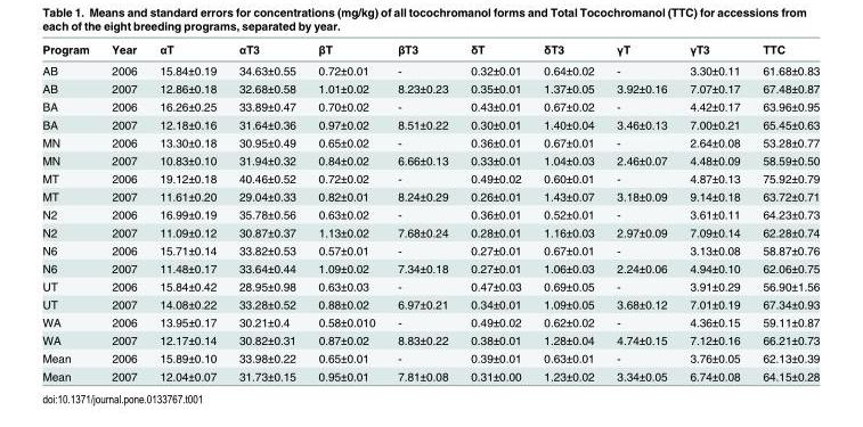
<table><thead><tr><td>Program</td><td>Year</td><td>αT</td><td>αT3</td><td>βT</td><td>βT3</td><td>δT</td><td>δT3</td><td>γT</td><td>γT3</td><td>TTC</td></tr></thead><tbody><tr><td>AB</td><td>2006</td><td>15.84±0.19</td><td>34.63±0.55</td><td>0.72±0.01</td><td>-</td><td>0.32±0.01</td><td>0.64±0.02</td><td>-</td><td>3.30±0.11</td><td>61.68±0.83</td></tr><tr><td>AB</td><td>2007</td><td>12.86±0.18</td><td>32.68±0.58</td><td>1.01±0.02</td><td>8.23±0.23</td><td>0.35±0.01</td><td>1.37±0.05</td><td>3.92±0.16</td><td>7.07±0.17</td><td>67.48±0.87</td></tr><tr><td>BA</td><td>2006</td><td>16.26±0.25</td><td>33.89±0.47</td><td>0.70±0.02</td><td>-</td><td>0.43±0.01</td><td>0.67±0.02</td><td>-</td><td>4.42±0.17</td><td>63.96±0.95</td></tr><tr><td>BA</td><td>2007</td><td>12.18±0.16</td><td>31.64±0.36</td><td>0.97±0.02</td><td>8.51±0.22</td><td>0.30±0.01</td><td>1.40±0.04</td><td>3.46±0.13</td><td>7.00±0.21</td><td>65.45±0.63</td></tr><tr><td>MN</td><td>2006</td><td>13.30±0.18</td><td>30.95±0.49</td><td>0.65±0.02</td><td>-</td><td>0.36±0.01</td><td>0.67±0.01</td><td>-</td><td>2.64±0.08</td><td>53.28±0.77</td></tr><tr><td>MN</td><td>2007</td><td>10.83±0.10</td><td>31.94±0.32</td><td>0.84±0.02</td><td>6.66±0.13</td><td>0.33±0.01</td><td>1.04±0.03</td><td>2.46±0.07</td><td>4.48±0.09</td><td>58.59±0.50</td></tr><tr><td>MT</td><td>2006</td><td>19.12±0.18</td><td>40.46±0.52</td><td>0.72±0.02</td><td>-</td><td>0.49±0.02</td><td>0.60±0.01</td><td>-</td><td>4.87±0.13</td><td>75.92±0.79</td></tr><tr><td>MT</td><td>2007</td><td>11.61±0.20</td><td>29.04±0.33</td><td>0.82±0.01</td><td>8.24±0.29</td><td>0.26±0.01</td><td>1.43±0.07</td><td>3.18±0.09</td><td>9.14±0.18</td><td>63.72±0.71</td></tr><tr><td>N2</td><td>2006</td><td>16.99±0.19</td><td>35.78±0.56</td><td>0.63±0.02</td><td>-</td><td>0.36±0.01</td><td>0.52±0.01</td><td>-</td><td>3.61±0.11</td><td>64.23±0.73</td></tr><tr><td>N2</td><td>2007</td><td>11.09±0.12</td><td>30.87±0.37</td><td>1.13±0.02</td><td>7.68±0.24</td><td>0.28±0.01</td><td>1.16±0.03</td><td>2.97±0.09</td><td>7.09±0.14</td><td>62.28±0.74</td></tr><tr><td>N6</td><td>2006</td><td>15.71±0.14</td><td>33.82±0.53</td><td>0.57±0.01</td><td>-</td><td>0.27±0.01</td><td>0.67±0.01</td><td>-</td><td>3.13±0.08</td><td>58.87±0.76</td></tr><tr><td>N6</td><td>2007</td><td>11.48±0.17</td><td>33.64±0.44</td><td>1.09±0.02</td><td>7.34±0.18</td><td>0.27±0.01</td><td>1.06±0.03</td><td>2.24±0.06</td><td>4.94±0.10</td><td>62.06±0.75</td></tr><tr><td>UT</td><td>2006</td><td>15.84±0.42</td><td>28.95±0.98</td><td>0.63±0.03</td><td>-</td><td>0.47±0.03</td><td>0.69±0.05</td><td>-</td><td>3.91±0.29</td><td>56.90±1.56</td></tr><tr><td>UT</td><td>2007</td><td>14.08±0.22</td><td>33.28±0.52</td><td>0.88±0.02</td><td>6.97±0.21</td><td>0.34±0.01</td><td>1.09±0.05</td><td>3.68±0.12</td><td>7.01±0.19</td><td>67.34±0.93</td></tr><tr><td>WA</td><td>2006</td><td>13.95±0.17</td><td>30.21±0.4</td><td>0.58±0.010</td><td>-</td><td>0.49±0.02</td><td>0.62±0.02</td><td>-</td><td>4.36±0.15</td><td>59.11±0.87</td></tr><tr><td>WA</td><td>2007</td><td>12.17±0.14</td><td>30.82±0.31</td><td>0.87±0.02</td><td>8.83±0.22</td><td>0.38±0.01</td><td>1.28±0.04</td><td>4.74±0.15</td><td>7.12±0.16</td><td>66.21±0.73</td></tr><tr><td>Mean</td><td>2006</td><td>15.89±0.10</td><td>33.98±0.22</td><td>0.65±0.01</td><td>-</td><td>0.39±0.01</td><td>0.63±0.01</td><td>-</td><td>3.76±0.05</td><td>62.13±0.39</td></tr><tr><td>Mean</td><td>2007</td><td>12.04±0.07</td><td>31.73±0.15</td><td>0.95±0.01</td><td>7.81±0.08</td><td>0.31±0.00</td><td>1.23±0.02</td><td>3.34±0.05</td><td>6.74±0.08</td><td>64.15±0.28</td></tr></tbody></table>